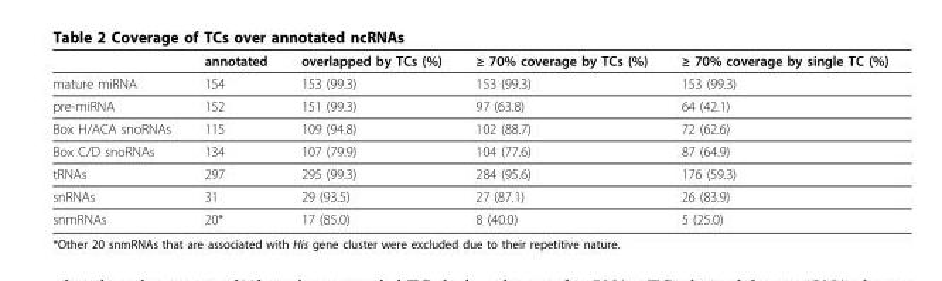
<table><thead><tr><td></td><td>annotated</td><td>overlapped by TCs (%)</td><td>≥ 70% coverage by TCs (%)</td><td>≥ 70% coverage by single TC (%)</td></tr></thead><tbody><tr><td>mature miRNA</td><td>154</td><td>153 (99.3)</td><td>153 (99.3)</td><td>153 (99.3)</td></tr><tr><td>pre-miRNA</td><td>152</td><td>151 (99.3)</td><td>97 (63.8)</td><td>64 (42.1)</td></tr><tr><td>Box H/ACA snoRNAs</td><td>115</td><td>109 (94.8)</td><td>102 (88.7)</td><td>72 (62.6)</td></tr><tr><td>Box C/D snoRNAs</td><td>134</td><td>107 (79.9)</td><td>104 (77.6)</td><td>87 (64.9)</td></tr><tr><td>tRNAs</td><td>297</td><td>295 (99.3)</td><td>284 (95.6)</td><td>176 (59.3)</td></tr><tr><td>snRNAs</td><td>31</td><td>29 (93.5)</td><td>27 (87.1)</td><td>26 (83.9)</td></tr><tr><td>snmRNAs</td><td>20*</td><td>17 (85.0)</td><td>8 (40.0)</td><td>5 (25.0)</td></tr></tbody></table>